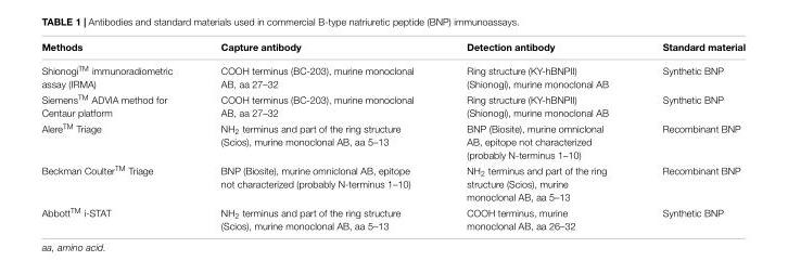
<table><thead><tr><td>Methods</td><td>Capture antibody</td><td>Detection antibody</td><td>Standard material</td></tr></thead><tbody><tr><td>Shionogi<sup>TM</sup> immunoradiometric assay (IRMA)</td><td>COOH terminus (BC-203), murine monoclonal AB, aa 27–32</td><td>Ring structure (KY-hBNPII) (Shionogi), murine monoclonal AB</td><td>Synthetic BNP</td></tr><tr><td>Siemens<sup>TM</sup> ADVIA method for Centaur platform</td><td>COOH terminus (BC-203), murine monoclonal AB, aa 27–32</td><td>Ring structure (KY-hBNPII) (Shionogi), murine monoclonal AB</td><td>Synthetic BNP</td></tr><tr><td>Alere<sup>TM</sup> Triage</td><td>NH<sub>2</sub> terminus and part of the ring structure (Scios), murine monoclonal AB, aa 5–13</td><td>BNP (Biosite), murine omniclonal AB, epitope not characterized (probably N-terminus 1–10)</td><td>Recombinant BNP</td></tr><tr><td>Beckman Coulter<sup>TM</sup> Triage</td><td>BNP (Biosite), murine omniclonal AB, epitope not characterized (probably N-terminus 1–10)</td><td>NH<sub>2</sub> terminus and part of the ring structure (Scios), murine monoclonal AB, aa 5–13</td><td>Recombinant BNP</td></tr><tr><td>Abbott<sup>TM</sup> i-STAT</td><td>NH<sub>2</sub> terminus and part of the ring structure (Scios), murine monoclonal AB, aa 5–13</td><td>COOH terminus, murine monoclonal AB, aa 26–32</td><td>Synthetic BNP</td></tr></tbody></table>